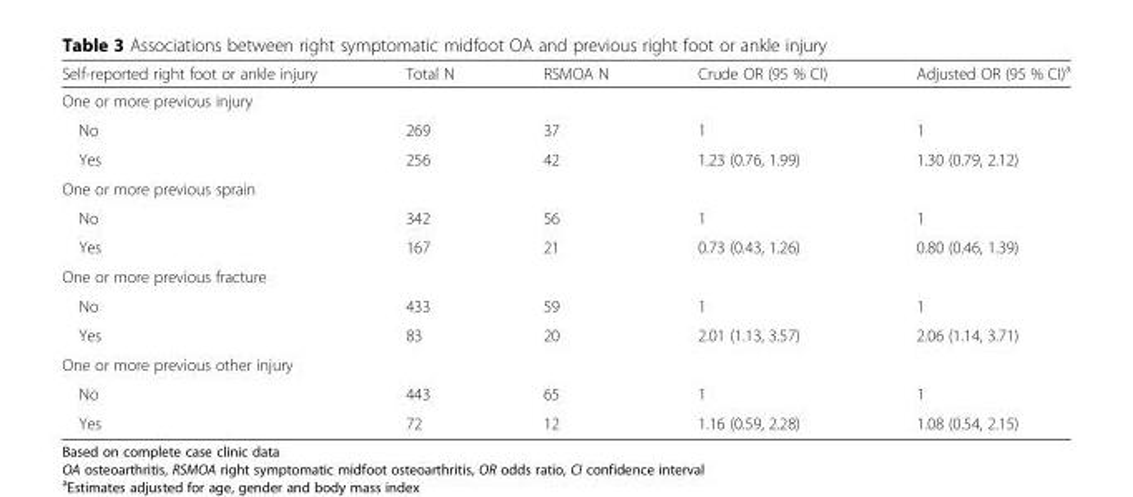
<table><thead><tr><td>Self-reported right foot or ankle injury</td><td>Total N</td><td>RSMOA N</td><td>Crude OR (95 % CI)</td><td>Adjusted OR (95 % CI)<sup>a</sup></td></tr></thead><tbody><tr><td colspan="5">One or more previous injury</td></tr><tr><td>No</td><td>269</td><td>37</td><td>1</td><td>1</td></tr><tr><td>Yes</td><td>256</td><td>42</td><td>1.23 (0.76, 1.99)</td><td>1.30 (0.79, 2.12)</td></tr><tr><td colspan="5">One or more previous sprain</td></tr><tr><td>No</td><td>342</td><td>56</td><td>1</td><td>1</td></tr><tr><td>Yes</td><td>167</td><td>21</td><td>0.73 (0.43, 1.26)</td><td>0.80 (0.46, 1.39)</td></tr><tr><td colspan="5">One or more previous fracture</td></tr><tr><td>No</td><td>433</td><td>59</td><td>1</td><td>1</td></tr><tr><td>Yes</td><td>83</td><td>20</td><td>2.01 (1.13, 3.57)</td><td>2.06 (1.14, 3.71)</td></tr><tr><td colspan="5">One or more previous other injury</td></tr><tr><td>No</td><td>443</td><td>65</td><td>1</td><td>1</td></tr><tr><td>Yes</td><td>72</td><td>12</td><td>1.16 (0.59, 2.28)</td><td>1.08 (0.54, 2.15)</td></tr></tbody></table>